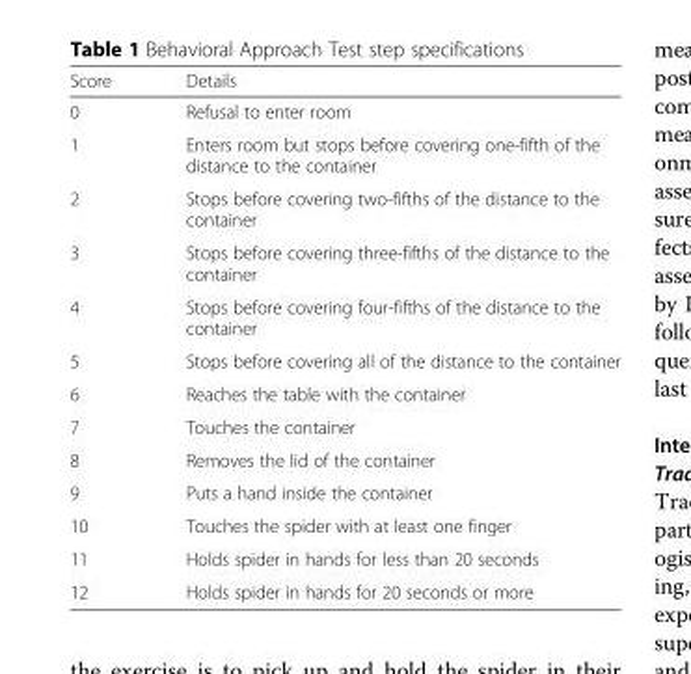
<table><thead><tr><td>Score</td><td>Details</td></tr></thead><tbody><tr><td>0</td><td>Refusal to enter room</td></tr><tr><td>1</td><td>Enters room but stops before covering one-fifth of the distance to the container</td></tr><tr><td>2</td><td>Stops before covering two-fifths of the distance to the container</td></tr><tr><td>3</td><td>Stops before covering three-fifths of the distance to the container</td></tr><tr><td>4</td><td>Stops before covering four-fifths of the distance to the container</td></tr><tr><td>5</td><td>Stops before covering all of the distance to the container</td></tr><tr><td>6</td><td>Reaches the table with the container</td></tr><tr><td>7</td><td>Touches the container</td></tr><tr><td>8</td><td>Removes the lid of the container</td></tr><tr><td>9</td><td>Puts a hand inside the container</td></tr><tr><td>10</td><td>Touches the spider with at least one finger</td></tr><tr><td>11</td><td>Holds spider in hands for less than 20 seconds</td></tr><tr><td>12</td><td>Holds spider in hands for 20 seconds or more</td></tr></tbody></table>